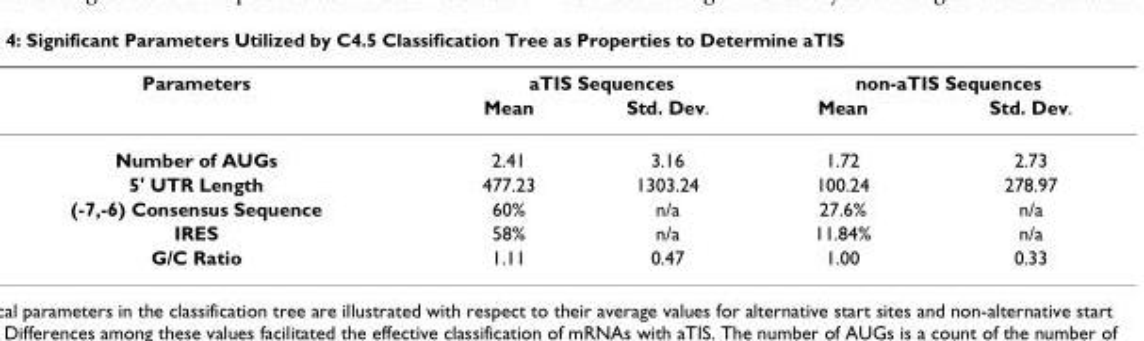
<table><thead><tr><td rowspan="2">Parameters</td><td colspan="2">aTIS Sequences</td><td colspan="2">non-aTIS Sequences</td></tr><tr><td>Mean</td><td>Std. Dev.</td><td>Mean</td><td>Std. Dev.</td></tr></thead><tbody><tr><td>Number of AUGs</td><td>2.41</td><td>3.16</td><td>1.72</td><td>2.73</td></tr><tr><td>5&#x27; UTR Length</td><td>477.23</td><td>1303.24</td><td>100.24</td><td>278.97</td></tr><tr><td>(-7,-6) Consensus Sequence</td><td>60%</td><td>n/a</td><td>27.6%</td><td>n/a</td></tr><tr><td>IRES</td><td>58%</td><td>n/a</td><td>11.84%</td><td>n/a</td></tr><tr><td>G/C Ratio</td><td>1.11</td><td>0.47</td><td>1.00</td><td>0.33</td></tr></tbody></table>